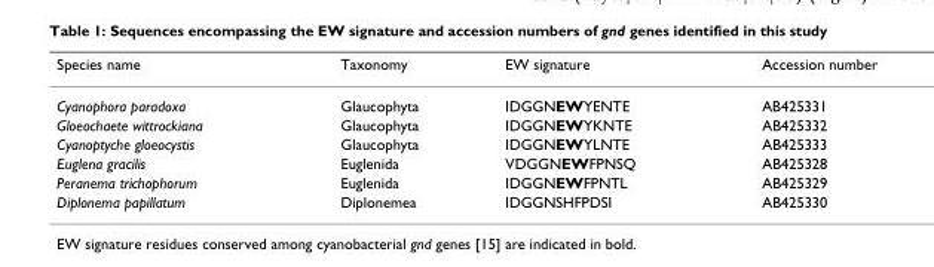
<table><thead><tr><td>Species name</td><td>Taxonomy</td><td>EW signature</td><td>Accession number</td></tr></thead><tbody><tr><td>Cyanophora paradoxa</td><td>Glaucophyta</td><td>IDGGNEWYENTE</td><td>AB425331</td></tr><tr><td>Gloeochaete wittrockiana</td><td>Glaucophyta</td><td>IDGGNEWYKNTE</td><td>AB425332</td></tr><tr><td>Cyanoptyche gloeocystis</td><td>Glaucophyta</td><td>IDGGNEWYLNTE</td><td>AB425333</td></tr><tr><td>Euglena gracilis</td><td>Euglenida</td><td>VDGGNEWFPNSQ</td><td>AB425328</td></tr><tr><td>Peranema trichophorum</td><td>Euglenida</td><td>IDGGNEWFPNTL</td><td>AB425329</td></tr><tr><td>Diplonema papillatum</td><td>Diplonemea</td><td>IDGGNSHFPDSI</td><td>AB425330</td></tr></tbody></table>